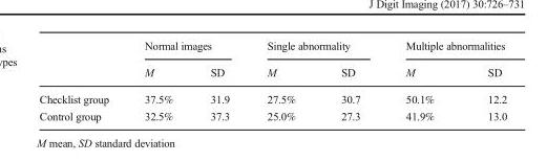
<table><thead><tr><td rowspan="2"></td><td colspan="2">Normal images</td><td colspan="2">Single abnormality</td><td colspan="2">Multiple abnormalities</td></tr><tr><td>M</td><td>SD</td><td>M</td><td>SD</td><td>M</td><td>SD</td></tr></thead><tbody><tr><td>Checklist group</td><td>37.5%</td><td>31.9</td><td>27.5%</td><td>30.7</td><td>50.1%</td><td>12.2</td></tr><tr><td>Control group</td><td>32.5%</td><td>37.3</td><td>25.0%</td><td>27.3</td><td>41.9%</td><td>13.0</td></tr></tbody></table>